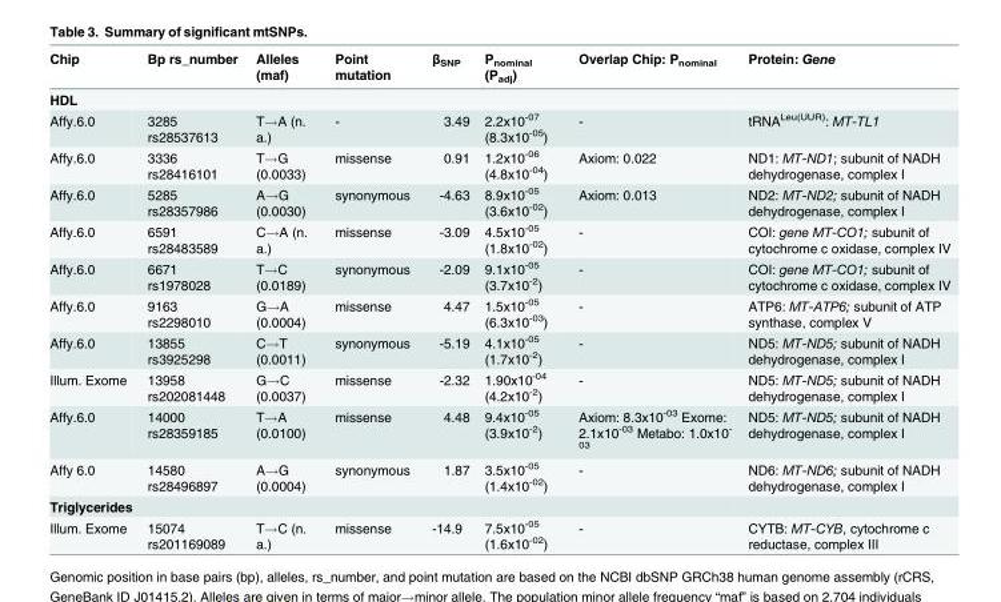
<table><thead><tr><td>Chip</td><td>Bp rs_number</td><td>Alleles (maf)</td><td>Point mutation</td><td>β<sub>SNP</sub></td><td>P<sub>nominal</sub> (P<sub>adj</sub>)</td><td>Overlap Chip: P<sub>nominal</sub></td><td>Protein: Gene</td></tr></thead><tbody><tr><td colspan="8">HDL</td></tr><tr><td>Affy.6.0</td><td>3285 rs28537613</td><td>T→A (n. a.)</td><td>-</td><td>3.49</td><td>2.2x10<sup>-07</sup> (8.3x10<sup>-05</sup>)</td><td>-</td><td>tRNA<sup>Leu(UUR)</sup>: MT-TL1</td></tr><tr><td>Affy.6.0</td><td>3336 rs28416101</td><td>T→G (0.0033)</td><td>missense</td><td>0.91</td><td>1.2x10<sup>-06</sup> (4.8x10<sup>-04</sup>)</td><td>Axiom: 0.022</td><td>ND1: MT-ND1; subunit of NADH dehydrogenase, complex I</td></tr><tr><td>Affy.6.0</td><td>5285 rs28357986</td><td>A→G (0.0030)</td><td>synonymous</td><td>-4.63</td><td>8.9x10<sup>-05</sup> (3.6x10<sup>-02</sup>)</td><td>Axiom: 0.013</td><td>ND2: MT-ND2; subunit of NADH dehydrogenase, complex I</td></tr><tr><td>Affy.6.0</td><td>6591 rs28483589</td><td>C→A (n. a.)</td><td>missense</td><td>-3.09</td><td>4.5x10<sup>-05</sup> (1.8x10<sup>-02</sup>)</td><td>-</td><td>COI: gene MT-CO1; subunit of cytochrome c oxidase, complex IV</td></tr><tr><td>Affy.6.0</td><td>6671 rs1978028</td><td>T→C (0.0189)</td><td>synonymous</td><td>-2.09</td><td>9.1x10<sup>-05</sup> (3.7x10<sup>-2</sup>)</td><td>-</td><td>COI: gene MT-CO1; subunit of cytochrome c oxidase, complex IV</td></tr><tr><td>Affy.6.0</td><td>9163 rs2298010</td><td>G→A (0.0004)</td><td>missense</td><td>4.47</td><td>1.5x10<sup>-05</sup> (6.3x10<sup>-03</sup>)</td><td>-</td><td>ATP6: MT-ATP6; subunit of ATP synthase, complex V</td></tr><tr><td>Affy.6.0</td><td>13855 rs3925298</td><td>C→T (0.0011)</td><td>synonymous</td><td>-5.19</td><td>4.1x10<sup>-05</sup> (1.7x10<sup>-2</sup>)</td><td>-</td><td>ND5: MT-ND5; subunit of NADH dehydrogenase, complex I</td></tr><tr><td>Illum. Exome</td><td>13958 rs202081448</td><td>G→C (0.0037)</td><td>missense</td><td>-2.32</td><td>1.90x10<sup>-04</sup> (4.2x10<sup>-2</sup>)</td><td>-</td><td>ND5: MT-ND5; subunit of NADH dehydrogenase, complex I</td></tr><tr><td>Affy.6.0</td><td>14000 rs28359185</td><td>T→A (0.0100)</td><td>missense</td><td>4.48</td><td>9.4x10<sup>-05</sup> (3.9x10<sup>-2</sup>)</td><td>Axiom: 8.3x10<sup>-03</sup> Exome: 2.1x10<sup>-03</sup> Metabo: 1.0x10<sup>- 03</sup></td><td>ND5: MT-ND5; subunit of NADH dehydrogenase, complex I</td></tr><tr><td>Affy 6.0</td><td>14580 rs28496897</td><td>A→G (0.0004)</td><td>synonymous</td><td>1.87</td><td>3.5x10<sup>-05</sup> (1.4x10<sup>-02</sup>)</td><td>-</td><td>ND6: MT-ND6; subunit of NADH dehydrogenase, complex I</td></tr><tr><td colspan="8">Triglycerides</td></tr><tr><td>Illum. Exome</td><td>15074 rs201169089</td><td>T→C (n. a.)</td><td>missense</td><td>-14.9</td><td>7.5x10<sup>-05</sup> (1.6x10<sup>-02</sup>)</td><td>-</td><td>CYTB: MT-CYB, cytochrome c reductase, complex III</td></tr></tbody></table>